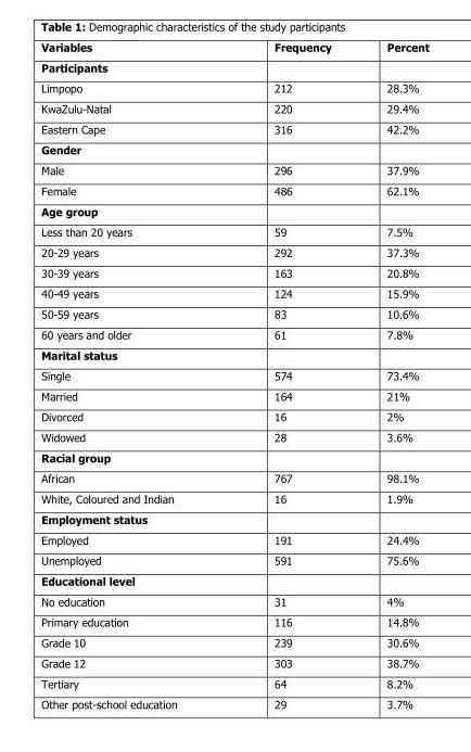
<table><thead><tr><td>Variables</td><td>Frequency</td><td>Percent</td></tr></thead><tbody><tr><td colspan="3">Participants</td></tr><tr><td>Limpopo</td><td>212</td><td>28.3%</td></tr><tr><td>KwaZulu-Natal</td><td>220</td><td>29.4%</td></tr><tr><td>Eastern Cape</td><td>316</td><td>42.2%</td></tr><tr><td colspan="3">Gender</td></tr><tr><td>Male</td><td>296</td><td>37.9%</td></tr><tr><td>Female</td><td>486</td><td>62.1%</td></tr><tr><td colspan="3">Age group</td></tr><tr><td>Less than 20 years</td><td>59</td><td>7.5%</td></tr><tr><td>20-29 years</td><td>292</td><td>37.3%</td></tr><tr><td>30-39 years</td><td>163</td><td>20.8%</td></tr><tr><td>40-49 years</td><td>124</td><td>15.9%</td></tr><tr><td>50-59 years</td><td>83</td><td>10.6%</td></tr><tr><td>60 years and older</td><td>61</td><td>7.8%</td></tr><tr><td colspan="3">Marital status</td></tr><tr><td>Single</td><td>574</td><td>73.4%</td></tr><tr><td>Married</td><td>164</td><td>21%</td></tr><tr><td>Divorced</td><td>16</td><td>2%</td></tr><tr><td>Widowed</td><td>28</td><td>3.6%</td></tr><tr><td colspan="3">Racial group</td></tr><tr><td>African</td><td>767</td><td>98.1%</td></tr><tr><td>White, Coloured and Indian</td><td>16</td><td>1.9%</td></tr><tr><td colspan="3">Employment status</td></tr><tr><td>Employed</td><td>191</td><td>24.4%</td></tr><tr><td>Unemployed</td><td>591</td><td>75.6%</td></tr><tr><td colspan="3">Educational level</td></tr><tr><td>No education</td><td>31</td><td>4%</td></tr><tr><td>Primary education</td><td>116</td><td>14.8%</td></tr><tr><td>Grade 10</td><td>239</td><td>30.6%</td></tr><tr><td>Grade 12</td><td>303</td><td>38.7%</td></tr><tr><td>Tertiary</td><td>64</td><td>8.2%</td></tr><tr><td>Other post-school education</td><td>29</td><td>3.7%</td></tr></tbody></table>